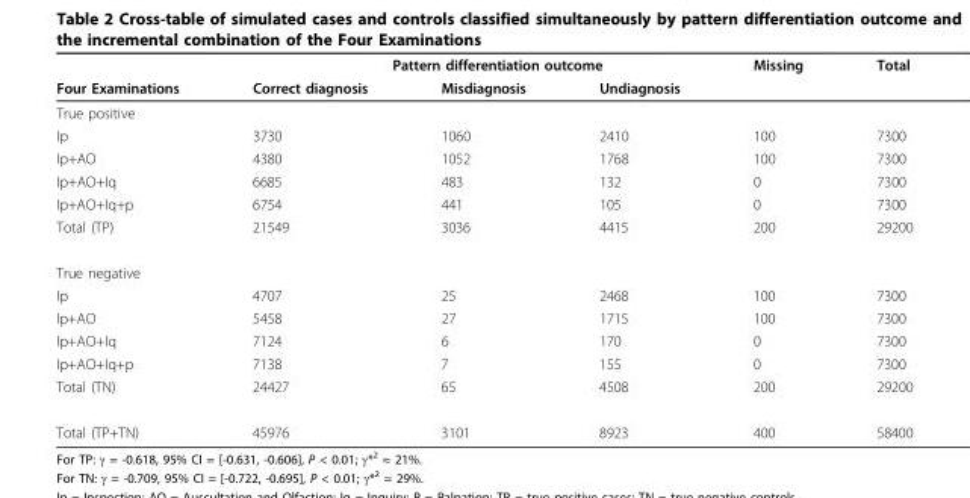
<table><thead><tr><td rowspan="2">Four Examinations</td><td colspan="3">Pattern differentiation outcome</td><td rowspan="2">Missing</td><td rowspan="2">Total</td></tr><tr><td>Correct diagnosis</td><td>Misdiagnosis</td><td>Undiagnosis</td></tr></thead><tbody><tr><td colspan="6">True positive</td></tr><tr><td>Ip</td><td>3730</td><td>1060</td><td>2410</td><td>100</td><td>7300</td></tr><tr><td>Ip+AO</td><td>4380</td><td>1052</td><td>1768</td><td>100</td><td>7300</td></tr><tr><td>Ip+AO+Iq</td><td>6685</td><td>483</td><td>132</td><td>0</td><td>7300</td></tr><tr><td>Ip+AO+Iq+p</td><td>6754</td><td>441</td><td>105</td><td>0</td><td>7300</td></tr><tr><td>Total (TP)</td><td>21549</td><td>3036</td><td>4415</td><td>200</td><td>29200</td></tr><tr><td colspan="6">True negative</td></tr><tr><td>Ip</td><td>4707</td><td>25</td><td>2468</td><td>100</td><td>7300</td></tr><tr><td>Ip+AO</td><td>5458</td><td>27</td><td>1715</td><td>100</td><td>7300</td></tr><tr><td>Ip+AO+Iq</td><td>7124</td><td>6</td><td>170</td><td>0</td><td>7300</td></tr><tr><td>Ip+AO+Iq+p</td><td>7138</td><td>7</td><td>155</td><td>0</td><td>7300</td></tr><tr><td>Total (TN)</td><td>24427</td><td>65</td><td>4508</td><td>200</td><td>29200</td></tr><tr><td>Total (TP+TN)</td><td>45976</td><td>3101</td><td>8923</td><td>400</td><td>58400</td></tr></tbody></table>